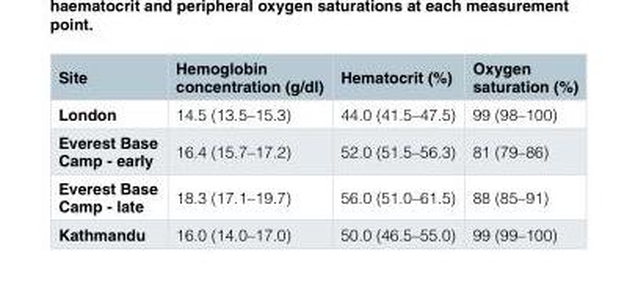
<table><thead><tr><td>Site</td><td>Hemoglobin concentration (g/dl)</td><td>Hematocrit (%)</td><td>Oxygen saturation (%)</td></tr></thead><tbody><tr><td>London</td><td>14.5 (13.5–15.3)</td><td>44.0 (41.5–47.5)</td><td>99 (98–100)</td></tr><tr><td>Everest Base Camp - early</td><td>16.4 (15.7–17.2)</td><td>52.0 (51.5–56.3)</td><td>81 (79–86)</td></tr><tr><td>Everest Base Camp - late</td><td>18.3 (17.1–19.7)</td><td>56.0 (51.0–61.5)</td><td>88 (85–91)</td></tr><tr><td>Kathmandu</td><td>16.0 (14.0–17.0)</td><td>50.0 (46.5–55.0)</td><td>99 (99–100)</td></tr></tbody></table>